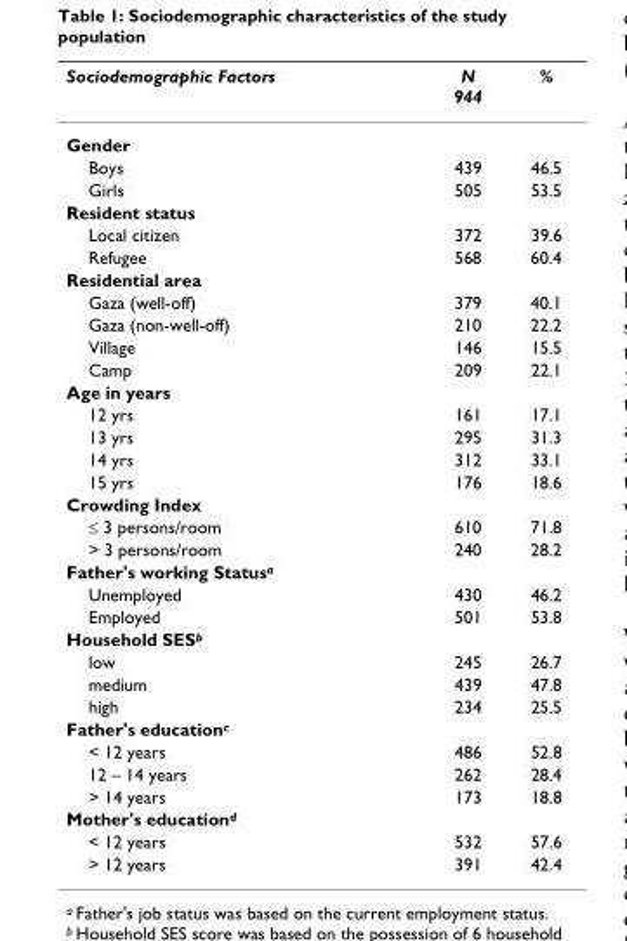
<table><thead><tr><td>Sociodemographic Factors</td><td>N 944</td><td>%</td></tr></thead><tbody><tr><td colspan="3">Gender</td></tr><tr><td>Boys</td><td>439</td><td>46.5</td></tr><tr><td>Girls</td><td>505</td><td>53.5</td></tr><tr><td colspan="3">Resident status</td></tr><tr><td>Local citizen</td><td>372</td><td>39.6</td></tr><tr><td>Refugee</td><td>568</td><td>60.4</td></tr><tr><td colspan="3">Residential area</td></tr><tr><td>Gaza (well-off)</td><td>379</td><td>40.1</td></tr><tr><td>Gaza (non-well-off)</td><td>210</td><td>22.2</td></tr><tr><td>Village</td><td>146</td><td>15.5</td></tr><tr><td>Camp</td><td>209</td><td>22.1</td></tr><tr><td colspan="3">Age in years</td></tr><tr><td>12 yrs</td><td>161</td><td>17.1</td></tr><tr><td>13 yrs</td><td>295</td><td>31.3</td></tr><tr><td>14 yrs</td><td>312</td><td>33.1</td></tr><tr><td>15 yrs</td><td>176</td><td>18.6</td></tr><tr><td colspan="3">Crowding Index</td></tr><tr><td>≤ 3 persons/room</td><td>610</td><td>71.8</td></tr><tr><td>&gt; 3 persons/room</td><td>240</td><td>28.2</td></tr><tr><td colspan="3">Father&#x27;s working Status<sup>a</sup></td></tr><tr><td>Unemployed</td><td>430</td><td>46.2</td></tr><tr><td>Employed</td><td>501</td><td>53.8</td></tr><tr><td colspan="3">Household SES<sup>b</sup></td></tr><tr><td>low</td><td>245</td><td>26.7</td></tr><tr><td>medium</td><td>439</td><td>47.8</td></tr><tr><td>high</td><td>234</td><td>25.5</td></tr><tr><td colspan="3">Father&#x27;s education<sup>c</sup></td></tr><tr><td>&lt; 12 years</td><td>486</td><td>52.8</td></tr><tr><td>12 – 14 years</td><td>262</td><td>28.4</td></tr><tr><td>&gt; 14 years</td><td>173</td><td>18.8</td></tr><tr><td colspan="3">Mother&#x27;s education<sup>d</sup></td></tr><tr><td>&lt; 12 years</td><td>532</td><td>57.6</td></tr><tr><td>&gt; 12 years</td><td>391</td><td>42.4</td></tr></tbody></table>